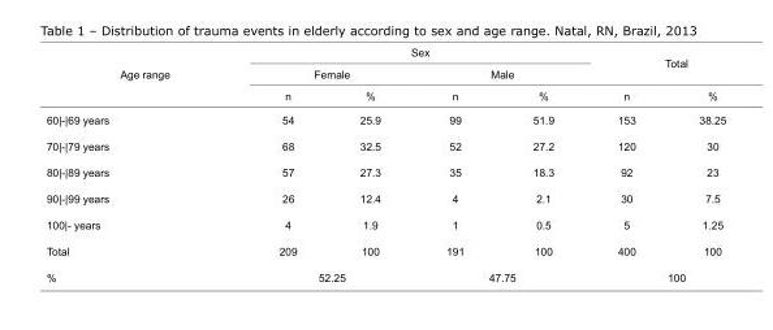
<table><thead><tr><td rowspan="3">Age range</td><td colspan="4">Sex</td><td rowspan="2" colspan="2">Total</td></tr><tr><td colspan="2">Female</td><td colspan="2">Male</td></tr><tr><td>n</td><td>%</td><td>n</td><td>%</td><td>n</td><td>%</td></tr></thead><tbody><tr><td>60|-|69 years</td><td>54</td><td>25.9</td><td>99</td><td>51.9</td><td>153</td><td>38.25</td></tr><tr><td>70|-|79 years</td><td>68</td><td>32.5</td><td>52</td><td>27.2</td><td>120</td><td>30</td></tr><tr><td>80|-|89 years</td><td>57</td><td>27.3</td><td>35</td><td>18.3</td><td>92</td><td>23</td></tr><tr><td>90|-|99 years</td><td>26</td><td>12.4</td><td>4</td><td>2.1</td><td>30</td><td>7.5</td></tr><tr><td>100|- years</td><td>4</td><td>1.9</td><td>1</td><td>0.5</td><td>5</td><td>1.25</td></tr><tr><td>Total</td><td>209</td><td>100</td><td>191</td><td>100</td><td>400</td><td>100</td></tr><tr><td>%</td><td colspan="2">52.25</td><td colspan="2">47.75</td><td colspan="2">100</td></tr></tbody></table>